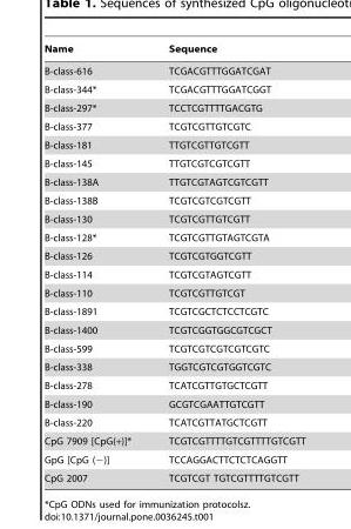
<table><thead><tr><td>Name</td><td>Sequence</td></tr></thead><tbody><tr><td>B-class-616</td><td>TCGACGTTTGGATCGAT</td></tr><tr><td>B-class-344*</td><td>TCGACGTTTGGATCGGT</td></tr><tr><td>B-class-297*</td><td>TCCTCGTTTTGACGTG</td></tr><tr><td>B-class-377</td><td>TCGTCGTTGTCGTC</td></tr><tr><td>B-class-181</td><td>TTGTCGTTGTCGTT</td></tr><tr><td>B-class-145</td><td>TTGTCGTCGTCGTT</td></tr><tr><td>B-class-138A</td><td>TTGTCGTAGTCGTCGTT</td></tr><tr><td>B-class-138B</td><td>TCGTCGTCGTCGTT</td></tr><tr><td>B-class-130</td><td>TCGTCGTTGTCGTT</td></tr><tr><td>B-class-128*</td><td>TCGTCGTTGTAGTCGTA</td></tr><tr><td>B-class-126</td><td>TCGTCGTGGTCGTT</td></tr><tr><td>B-class-114</td><td>TCGTCGTAGTCGTT</td></tr><tr><td>B-class-110</td><td>TCGTCGTTGTCGT</td></tr><tr><td>B-class-1891</td><td>TCGTCGCTCTCCTCGTC</td></tr><tr><td>B-class-1400</td><td>TCGTCGGTGGCGTCGCT</td></tr><tr><td>B-class-599</td><td>TCGTCGTCGTCGTCGTC</td></tr><tr><td>B-class-338</td><td>TGGTCGTCGTGGTCGTC</td></tr><tr><td>B-class-278</td><td>TCATCGTTGTGCTCGTT</td></tr><tr><td>B-class-190</td><td>GCGTCGAATTGTCGTT</td></tr><tr><td>B-class-220</td><td>TCATCGTTATGCTCGTT</td></tr><tr><td>CpG 7909 [CpG(+)]*</td><td>TCGTCGTTTTGTCGTTTTGTCGTT</td></tr><tr><td>GpG [CpG (−)]</td><td>TCCAGGACTTCTCTCAGGTT</td></tr><tr><td>CpG 2007</td><td>TCGTCGT TGTCGTTTTGTCGTT</td></tr></tbody></table>